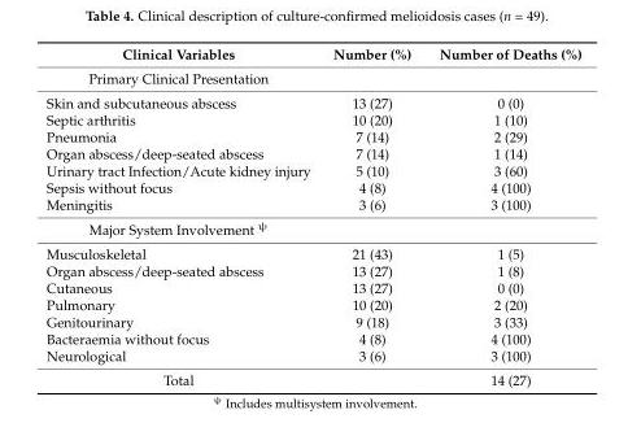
<table><thead><tr><td>Clinical Variables</td><td>Number (%)</td><td>Number of Deaths (%)</td></tr></thead><tbody><tr><td colspan="3">Primary Clinical Presentation</td></tr><tr><td>Skin and subcutaneous abscess</td><td>13 (27)</td><td>0 (0)</td></tr><tr><td>Septic arthritis</td><td>10 (20)</td><td>1 (10)</td></tr><tr><td>Pneumonia</td><td>7 (14)</td><td>2 (29)</td></tr><tr><td>Organ abscess/deep-seated abscess</td><td>7 (14)</td><td>1 (14)</td></tr><tr><td>Urinary tract Infection/Acute kidney injury</td><td>5 (10)</td><td>3 (60)</td></tr><tr><td>Sepsis without focus</td><td>4 (8)</td><td>4 (100)</td></tr><tr><td>Meningitis</td><td>3 (6)</td><td>3 (100)</td></tr><tr><td colspan="3">Major System Involvement <sup>ψ</sup></td></tr><tr><td>Musculoskeletal</td><td>21 (43)</td><td>1 (5)</td></tr><tr><td>Organ abscess/deep-seated abscess</td><td>13 (27)</td><td>1 (8)</td></tr><tr><td>Cutaneous</td><td>13 (27)</td><td>0 (0)</td></tr><tr><td>Pulmonary</td><td>10 (20)</td><td>2 (20)</td></tr><tr><td>Genitourinary</td><td>9 (18)</td><td>3 (33)</td></tr><tr><td>Bacteraemia without focus</td><td>4 (8)</td><td>4 (100)</td></tr><tr><td>Neurological</td><td>3 (6)</td><td>3 (100)</td></tr><tr><td>Total</td><td></td><td>14 (27)</td></tr></tbody></table>